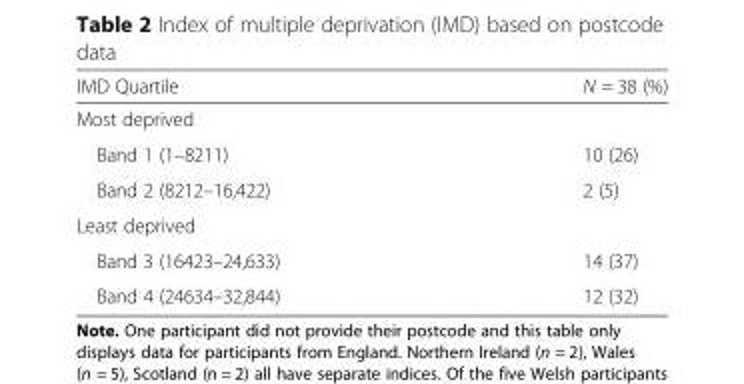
<table><thead><tr><td>IMD Quartile</td><td>N = 38 (%)</td></tr></thead><tbody><tr><td colspan="2">Most deprived</td></tr><tr><td>Band 1 (1–8211)</td><td>10 (26)</td></tr><tr><td>Band 2 (8212–16,422)</td><td>2 (5)</td></tr><tr><td colspan="2">Least deprived</td></tr><tr><td>Band 3 (16423–24,633)</td><td>14 (37)</td></tr><tr><td>Band 4 (24634–32,844)</td><td>12 (32)</td></tr></tbody></table>